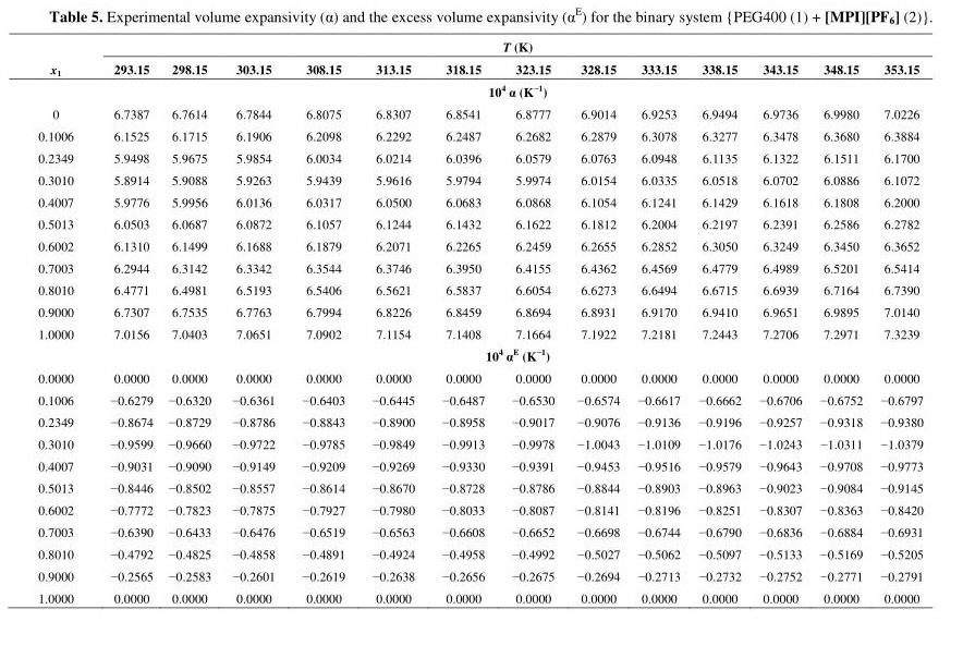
<table><thead><tr><td rowspan="2">x<sub>1</sub></td><td colspan="13">T (K)</td></tr><tr><td>293.15</td><td>298.15</td><td>303.15</td><td>308.15</td><td>313.15</td><td>318.15</td><td>323.15</td><td>328.15</td><td>333.15</td><td>338.15</td><td>343.15</td><td>348.15</td><td>353.15</td></tr></thead><tbody><tr><td></td><td colspan="13">104 α (K−1)</td></tr><tr><td>0</td><td>6.7387</td><td>6.7614</td><td>6.7844</td><td>6.8075</td><td>6.8307</td><td>6.8541</td><td>6.8777</td><td>6.9014</td><td>6.9253</td><td>6.9494</td><td>6.9736</td><td>6.9980</td><td>7.0226</td></tr><tr><td>0.1006</td><td>6.1525</td><td>6.1715</td><td>6.1906</td><td>6.2098</td><td>6.2292</td><td>6.2487</td><td>6.2682</td><td>6.2879</td><td>6.3078</td><td>6.3277</td><td>6.3478</td><td>6.3680</td><td>6.3884</td></tr><tr><td>0.2349</td><td>5.9498</td><td>5.9675</td><td>5.9854</td><td>6.0034</td><td>6.0214</td><td>6.0396</td><td>6.0579</td><td>6.0763</td><td>6.0948</td><td>6.1135</td><td>6.1322</td><td>6.1511</td><td>6.1700</td></tr><tr><td>0.3010</td><td>5.8914</td><td>5.9088</td><td>5.9263</td><td>5.9439</td><td>5.9616</td><td>5.9794</td><td>5.9974</td><td>6.0154</td><td>6.0335</td><td>6.0518</td><td>6.0702</td><td>6.0886</td><td>6.1072</td></tr><tr><td>0.4007</td><td>5.9776</td><td>5.9956</td><td>6.0136</td><td>6.0317</td><td>6.0500</td><td>6.0683</td><td>6.0868</td><td>6.1054</td><td>6.1241</td><td>6.1429</td><td>6.1618</td><td>6.1808</td><td>6.2000</td></tr><tr><td>0.5013</td><td>6.0503</td><td>6.0687</td><td>6.0872</td><td>6.1057</td><td>6.1244</td><td>6.1432</td><td>6.1622</td><td>6.1812</td><td>6.2004</td><td>6.2197</td><td>6.2391</td><td>6.2586</td><td>6.2782</td></tr><tr><td>0.6002</td><td>6.1310</td><td>6.1499</td><td>6.1688</td><td>6.1879</td><td>6.2071</td><td>6.2265</td><td>6.2459</td><td>6.2655</td><td>6.2852</td><td>6.3050</td><td>6.3249</td><td>6.3450</td><td>6.3652</td></tr><tr><td>0.7003</td><td>6.2944</td><td>6.3142</td><td>6.3342</td><td>6.3544</td><td>6.3746</td><td>6.3950</td><td>6.4155</td><td>6.4362</td><td>6.4569</td><td>6.4779</td><td>6.4989</td><td>6.5201</td><td>6.5414</td></tr><tr><td>0.8010</td><td>6.4771</td><td>6.4981</td><td>6.5193</td><td>6.5406</td><td>6.5621</td><td>6.5837</td><td>6.6054</td><td>6.6273</td><td>6.6494</td><td>6.6715</td><td>6.6939</td><td>6.7164</td><td>6.7390</td></tr><tr><td>0.9000</td><td>6.7307</td><td>6.7535</td><td>6.7763</td><td>6.7994</td><td>6.8226</td><td>6.8459</td><td>6.8694</td><td>6.8931</td><td>6.9170</td><td>6.9410</td><td>6.9651</td><td>6.9895</td><td>7.0140</td></tr><tr><td rowspan="2">1.0000</td><td>7.0156</td><td>7.0403</td><td>7.0651</td><td>7.0902</td><td>7.1154</td><td>7.1408</td><td>7.1664</td><td>7.1922</td><td>7.2181</td><td>7.2443</td><td>7.2706</td><td>7.2971</td><td>7.3239</td></tr><tr><td colspan="13">104 αE (K−1)</td></tr><tr><td>0.0000</td><td>0.0000</td><td>0.0000</td><td>0.0000</td><td>0.0000</td><td>0.0000</td><td>0.0000</td><td>0.0000</td><td>0.0000</td><td>0.0000</td><td>0.0000</td><td>0.0000</td><td>0.0000</td><td>0.0000</td></tr><tr><td>0.1006</td><td>−0.6279</td><td>−0.6320</td><td>−0.6361</td><td>−0.6403</td><td>−0.6445</td><td>−0.6487</td><td>−0.6530</td><td>−0.6574</td><td>−0.6617</td><td>−0.6662</td><td>−0.6706</td><td>−0.6752</td><td>−0.6797</td></tr><tr><td>0.2349</td><td>−0.8674</td><td>−0.8729</td><td>−0.8786</td><td>−0.8843</td><td>−0.8900</td><td>−0.8958</td><td>−0.9017</td><td>−0.9076</td><td>−0.9136</td><td>−0.9196</td><td>−0.9257</td><td>−0.9318</td><td>−0.9380</td></tr><tr><td>0.3010</td><td>−0.9599</td><td>−0.9660</td><td>−0.9722</td><td>−0.9785</td><td>−0.9849</td><td>−0.9913</td><td>−0.9978</td><td>−1.0043</td><td>−1.0109</td><td>−1.0176</td><td>−1.0243</td><td>−1.0311</td><td>−1.0379</td></tr><tr><td>0.4007</td><td>−0.9031</td><td>−0.9090</td><td>−0.9149</td><td>−0.9209</td><td>−0.9269</td><td>−0.9330</td><td>−0.9391</td><td>−0.9453</td><td>−0.9516</td><td>−0.9579</td><td>−0.9643</td><td>−0.9708</td><td>−0.9773</td></tr><tr><td>0.5013</td><td>−0.8446</td><td>−0.8502</td><td>−0.8557</td><td>−0.8614</td><td>−0.8670</td><td>−0.8728</td><td>−0.8786</td><td>−0.8844</td><td>−0.8903</td><td>−0.8963</td><td>−0.9023</td><td>−0.9084</td><td>−0.9145</td></tr><tr><td>0.6002</td><td>−0.7772</td><td>−0.7823</td><td>−0.7875</td><td>−0.7927</td><td>−0.7980</td><td>−0.8033</td><td>−0.8087</td><td>−0.8141</td><td>−0.8196</td><td>−0.8251</td><td>−0.8307</td><td>−0.8363</td><td>−0.8420</td></tr><tr><td>0.7003</td><td>−0.6390</td><td>−0.6433</td><td>−0.6476</td><td>−0.6519</td><td>−0.6563</td><td>−0.6608</td><td>−0.6652</td><td>−0.6698</td><td>−0.6744</td><td>−0.6790</td><td>−0.6836</td><td>−0.6884</td><td>−0.6931</td></tr><tr><td>0.8010</td><td>−0.4792</td><td>−0.4825</td><td>−0.4858</td><td>−0.4891</td><td>−0.4924</td><td>−0.4958</td><td>−0.4992</td><td>−0.5027</td><td>−0.5062</td><td>−0.5097</td><td>−0.5133</td><td>−0.5169</td><td>−0.5205</td></tr><tr><td>0.9000</td><td>−0.2565</td><td>−0.2583</td><td>−0.2601</td><td>−0.2619</td><td>−0.2638</td><td>−0.2656</td><td>−0.2675</td><td>−0.2694</td><td>−0.2713</td><td>−0.2732</td><td>−0.2752</td><td>−0.2771</td><td>−0.2791</td></tr><tr><td>1.0000</td><td>0.0000</td><td>0.0000</td><td>0.0000</td><td>0.0000</td><td>0.0000</td><td>0.0000</td><td>0.0000</td><td>0.0000</td><td>0.0000</td><td>0.0000</td><td>0.0000</td><td>0.0000</td><td>0.0000</td></tr></tbody></table>